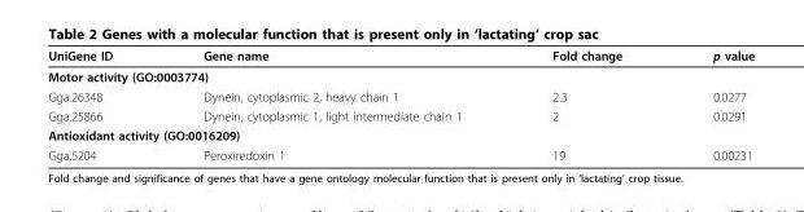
<table><thead><tr><td>UniGene ID</td><td>Gene name</td><td>Fold change</td><td>p value</td></tr></thead><tbody><tr><td colspan="4">Motor activity (GO:0003774)</td></tr><tr><td>Gga.26348</td><td>Dynein, cytoplasmic 2, heavy chain 1</td><td>2.3</td><td>0.0277</td></tr><tr><td>Gga.25866</td><td>Dynein, cytoplasmic 1, light intermediate chain 1</td><td>2</td><td>0.0291</td></tr><tr><td colspan="4">Antioxidant activity (GO:0016209)</td></tr><tr><td>Gga.5204</td><td>Peroxiredoxin 1</td><td>19</td><td>0.00231</td></tr></tbody></table>